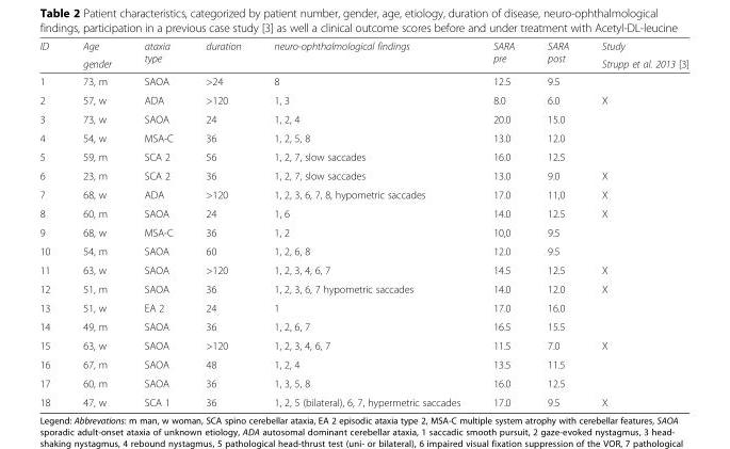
<table><thead><tr><td rowspan="2">ID</td><td rowspan="2">Age gender</td><td rowspan="2">ataxia type</td><td rowspan="2">duration</td><td rowspan="2">neuro-ophthalmological findings</td><td rowspan="2">SARA pre</td><td rowspan="2">SARA post</td><td rowspan="2">Study Strupp et al. 2013 [3]</td></tr><tr></tr></thead><tbody><tr><td>1</td><td>73, m</td><td>SAOA</td><td>&gt;24</td><td>8</td><td>12.5</td><td>9.5</td><td></td></tr><tr><td>2</td><td>57, w</td><td>ADA</td><td>&gt;120</td><td>1, 3</td><td>8.0</td><td>6.0</td><td>X</td></tr><tr><td>3</td><td>73, w</td><td>SAOA</td><td>24</td><td>1, 2, 4</td><td>20.0</td><td>15.0</td><td></td></tr><tr><td>4</td><td>54, w</td><td>MSA-C</td><td>36</td><td>1, 2, 5, 8</td><td>13.0</td><td>12.0</td><td></td></tr><tr><td>5</td><td>59, m</td><td>SCA 2</td><td>56</td><td>1, 2, 7, slow saccades</td><td>16.0</td><td>12.5</td><td></td></tr><tr><td>6</td><td>23, m</td><td>SCA 2</td><td>36</td><td>1, 2, 7, slow saccades</td><td>13.0</td><td>9.0</td><td>X</td></tr><tr><td>7</td><td>68, w</td><td>ADA</td><td>&gt;120</td><td>1, 2, 3, 6, 7, 8, hypometric saccades</td><td>17.0</td><td>11,0</td><td>X</td></tr><tr><td>8</td><td>60, m</td><td>SAOA</td><td>24</td><td>1, 6</td><td>14.0</td><td>12.5</td><td>X</td></tr><tr><td>9</td><td>68, w</td><td>MSA-C</td><td>36</td><td>1, 2</td><td>10,0</td><td>9.5</td><td></td></tr><tr><td>10</td><td>54, m</td><td>SAOA</td><td>60</td><td>1, 2, 6, 8</td><td>12.0</td><td>9.5</td><td></td></tr><tr><td>11</td><td>63, w</td><td>SAOA</td><td>&gt;120</td><td>1, 2, 3, 4, 6, 7</td><td>14.5</td><td>12.5</td><td>X</td></tr><tr><td>12</td><td>51, m</td><td>SAOA</td><td>36</td><td>1, 2, 3, 6, 7 hypometric saccades</td><td>14.0</td><td>12.0</td><td>X</td></tr><tr><td>13</td><td>51, w</td><td>EA 2</td><td>24</td><td>1</td><td>17.0</td><td>16.0</td><td></td></tr><tr><td>14</td><td>49, m</td><td>SAOA</td><td>36</td><td>1, 2, 6, 7</td><td>16.5</td><td>15.5</td><td></td></tr><tr><td>15</td><td>63, w</td><td>SAOA</td><td>&gt;120</td><td>1, 2, 3, 4, 6, 7</td><td>11.5</td><td>7.0</td><td>X</td></tr><tr><td>16</td><td>67, m</td><td>SAOA</td><td>48</td><td>1, 2, 4</td><td>13.5</td><td>11.5</td><td></td></tr><tr><td>17</td><td>60, m</td><td>SAOA</td><td>36</td><td>1, 3, 5, 8</td><td>16.0</td><td>12.5</td><td></td></tr><tr><td>18</td><td>47, w</td><td>SCA 1</td><td>36</td><td>1, 2, 5 (bilateral), 6, 7, hypermetric saccades</td><td>17.0</td><td>9.5</td><td>X</td></tr></tbody></table>